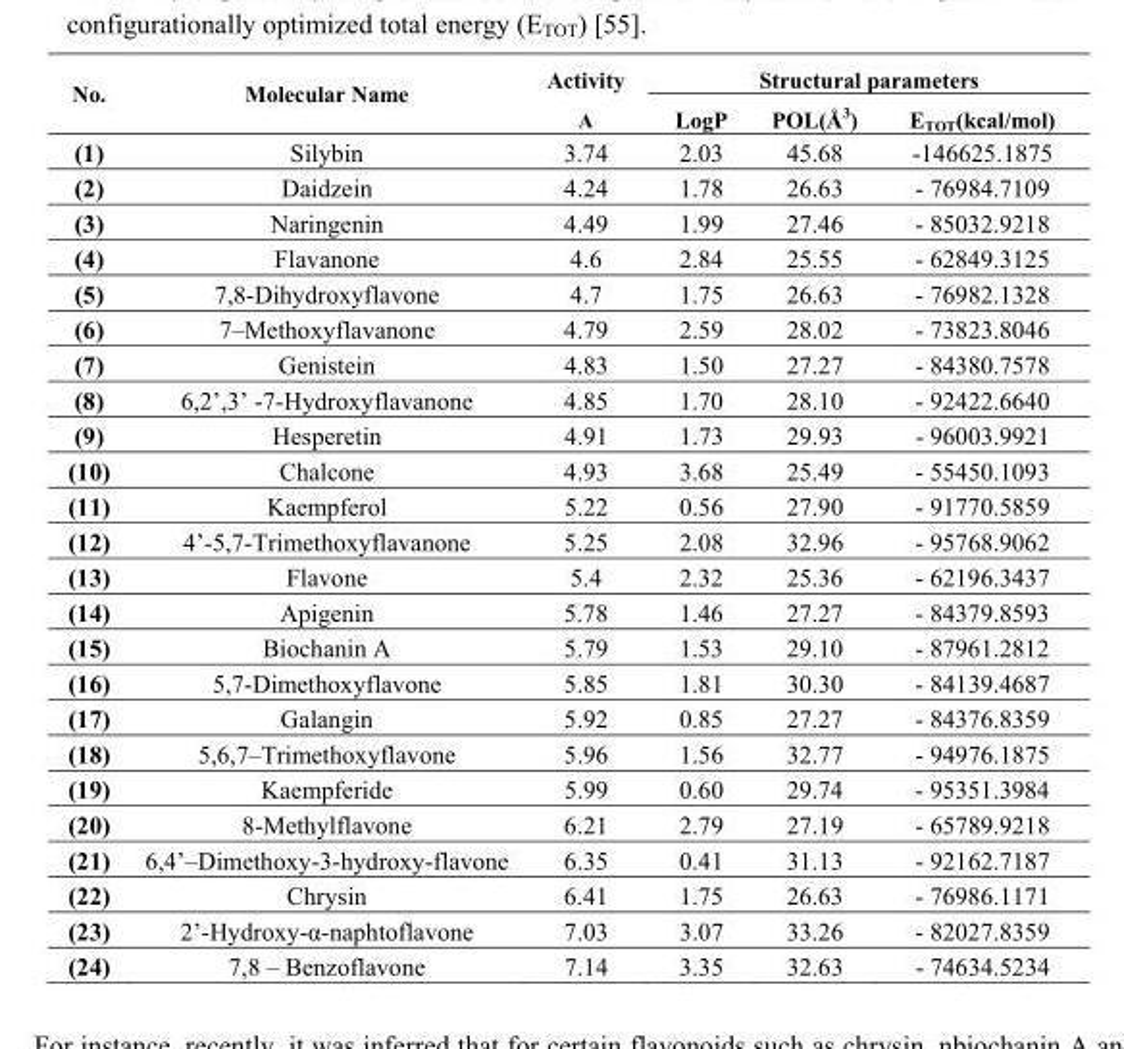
<table><thead><tr><td rowspan="2">No.</td><td rowspan="2">Molecular Name</td><td rowspan="2">Activity A</td><td colspan="3">Structural parameters</td></tr><tr><td>LogP</td><td>POL(Å<sup>3</sup>)</td><td>E<sub>TOT</sub>(kcal/mol)</td></tr></thead><tbody><tr><td>(1)</td><td>Silybin</td><td>3.74</td><td>2.03</td><td>45.68</td><td>-146625.1875</td></tr><tr><td>(2)</td><td>Daidzein</td><td>4.24</td><td>1.78</td><td>26.63</td><td>- 76984.7109</td></tr><tr><td>(3)</td><td>Naringenin</td><td>4.49</td><td>1.99</td><td>27.46</td><td>- 85032.9218</td></tr><tr><td>(4)</td><td>Flavanone</td><td>4.6</td><td>2.84</td><td>25.55</td><td>- 62849.3125</td></tr><tr><td>(5)</td><td>7,8-Dihydroxyflavone</td><td>4.7</td><td>1.75</td><td>26.63</td><td>- 76982.1328</td></tr><tr><td>(6)</td><td>7–Methoxyflavanone</td><td>4.79</td><td>2.59</td><td>28.02</td><td>- 73823.8046</td></tr><tr><td>(7)</td><td>Genistein</td><td>4.83</td><td>1.50</td><td>27.27</td><td>- 84380.7578</td></tr><tr><td>(8)</td><td>6,2’,3’ -7-Hydroxyflavanone</td><td>4.85</td><td>1.70</td><td>28.10</td><td>- 92422.6640</td></tr><tr><td>(9)</td><td>Hesperetin</td><td>4.91</td><td>1.73</td><td>29.93</td><td>- 96003.9921</td></tr><tr><td>(10)</td><td>Chalcone</td><td>4.93</td><td>3.68</td><td>25.49</td><td>- 55450.1093</td></tr><tr><td>(11)</td><td>Kaempferol</td><td>5.22</td><td>0.56</td><td>27.90</td><td>- 91770.5859</td></tr><tr><td>(12)</td><td>4’-5,7-Trimethoxyflavanone</td><td>5.25</td><td>2.08</td><td>32.96</td><td>- 95768.9062</td></tr><tr><td>(13)</td><td>Flavone</td><td>5.4</td><td>2.32</td><td>25.36</td><td>- 62196.3437</td></tr><tr><td>(14)</td><td>Apigenin</td><td>5.78</td><td>1.46</td><td>27.27</td><td>- 84379.8593</td></tr><tr><td>(15)</td><td>Biochanin A</td><td>5.79</td><td>1.53</td><td>29.10</td><td>- 87961.2812</td></tr><tr><td>(16)</td><td>5,7-Dimethoxyflavone</td><td>5.85</td><td>1.81</td><td>30.30</td><td>- 84139.4687</td></tr><tr><td>(17)</td><td>Galangin</td><td>5.92</td><td>0.85</td><td>27.27</td><td>- 84376.8359</td></tr><tr><td>(18)</td><td>5,6,7–Trimethoxyflavone</td><td>5.96</td><td>1.56</td><td>32.77</td><td>- 94976.1875</td></tr><tr><td>(19)</td><td>Kaempferide</td><td>5.99</td><td>0.60</td><td>29.74</td><td>- 95351.3984</td></tr><tr><td>(20)</td><td>8-Methylflavone</td><td>6.21</td><td>2.79</td><td>27.19</td><td>- 65789.9218</td></tr><tr><td>(21)</td><td>6,4’–Dimethoxy-3-hydroxy-flavone</td><td>6.35</td><td>0.41</td><td>31.13</td><td>- 92162.7187</td></tr><tr><td>(22)</td><td>Chrysin</td><td>6.41</td><td>1.75</td><td>26.63</td><td>- 76986.1171</td></tr><tr><td>(23)</td><td>2’-Hydroxy-α-naphtoflavone</td><td>7.03</td><td>3.07</td><td>33.26</td><td>- 82027.8359</td></tr><tr><td>(24)</td><td>7,8 – Benzoflavone</td><td>7.14</td><td>3.35</td><td>32.63</td><td>- 74634.5234</td></tr></tbody></table>